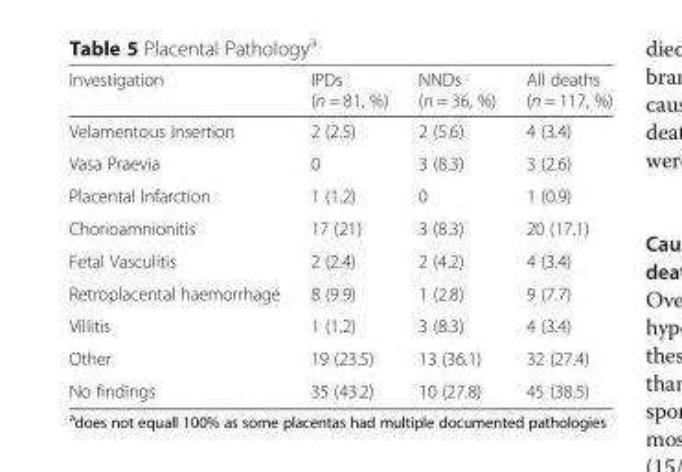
<table><thead><tr><td>Investigation</td><td>IPDs (n = 81, %)</td><td>NNDs (n = 36, %)</td><td>All deaths (n = 117, %)</td></tr></thead><tbody><tr><td>Velamentous Insertion</td><td>2 (2.5)</td><td>2 (5.6)</td><td>4 (3.4)</td></tr><tr><td>Vasa Praevia</td><td>0</td><td>3 (8.3)</td><td>3 (2.6)</td></tr><tr><td>Placental Infarction</td><td>1 (1.2)</td><td>0</td><td>1 (0.9)</td></tr><tr><td>Chorioamnionitis</td><td>17 (21)</td><td>3 (8.3)</td><td>20 (17.1)</td></tr><tr><td>Fetal Vasculitis</td><td>2 (2.4)</td><td>2 (4.2)</td><td>4 (3.4)</td></tr><tr><td>Retroplacental haemorrhage</td><td>8 (9.9)</td><td>1 (2.8)</td><td>9 (7.7)</td></tr><tr><td>Villitis</td><td>1 (1.2)</td><td>3 (8.3)</td><td>4 (3.4)</td></tr><tr><td>Other</td><td>19 (23.5)</td><td>13 (36.1)</td><td>32 (27.4)</td></tr><tr><td>No findings</td><td>35 (43.2)</td><td>10 (27.8)</td><td>45 (38.5)</td></tr></tbody></table>